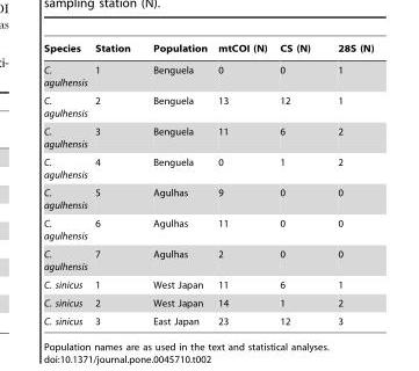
<table><thead><tr><td>Species</td><td>Station</td><td>Population</td><td>mtCOI (N)</td><td>CS (N)</td><td>28S (N)</td></tr></thead><tbody><tr><td>C. agulhensis</td><td>1</td><td>Benguela</td><td>0</td><td>0</td><td>1</td></tr><tr><td>C. agulhensis</td><td>2</td><td>Benguela</td><td>13</td><td>12</td><td>1</td></tr><tr><td>C. agulhensis</td><td>3</td><td>Benguela</td><td>11</td><td>6</td><td>2</td></tr><tr><td>C. agulhensis</td><td>4</td><td>Benguela</td><td>0</td><td>1</td><td>2</td></tr><tr><td>C. agulhensis</td><td>5</td><td>Agulhas</td><td>9</td><td>0</td><td>0</td></tr><tr><td>C. agulhensis</td><td>6</td><td>Agulhas</td><td>11</td><td>0</td><td>0</td></tr><tr><td>C. agulhensis</td><td>7</td><td>Agulhas</td><td>2</td><td>0</td><td>0</td></tr><tr><td>C. sinicus</td><td>1</td><td>West Japan</td><td>11</td><td>6</td><td>1</td></tr><tr><td>C. sinicus</td><td>2</td><td>West Japan</td><td>14</td><td>1</td><td>2</td></tr><tr><td>C. sinicus</td><td>3</td><td>East Japan</td><td>23</td><td>12</td><td>3</td></tr></tbody></table>